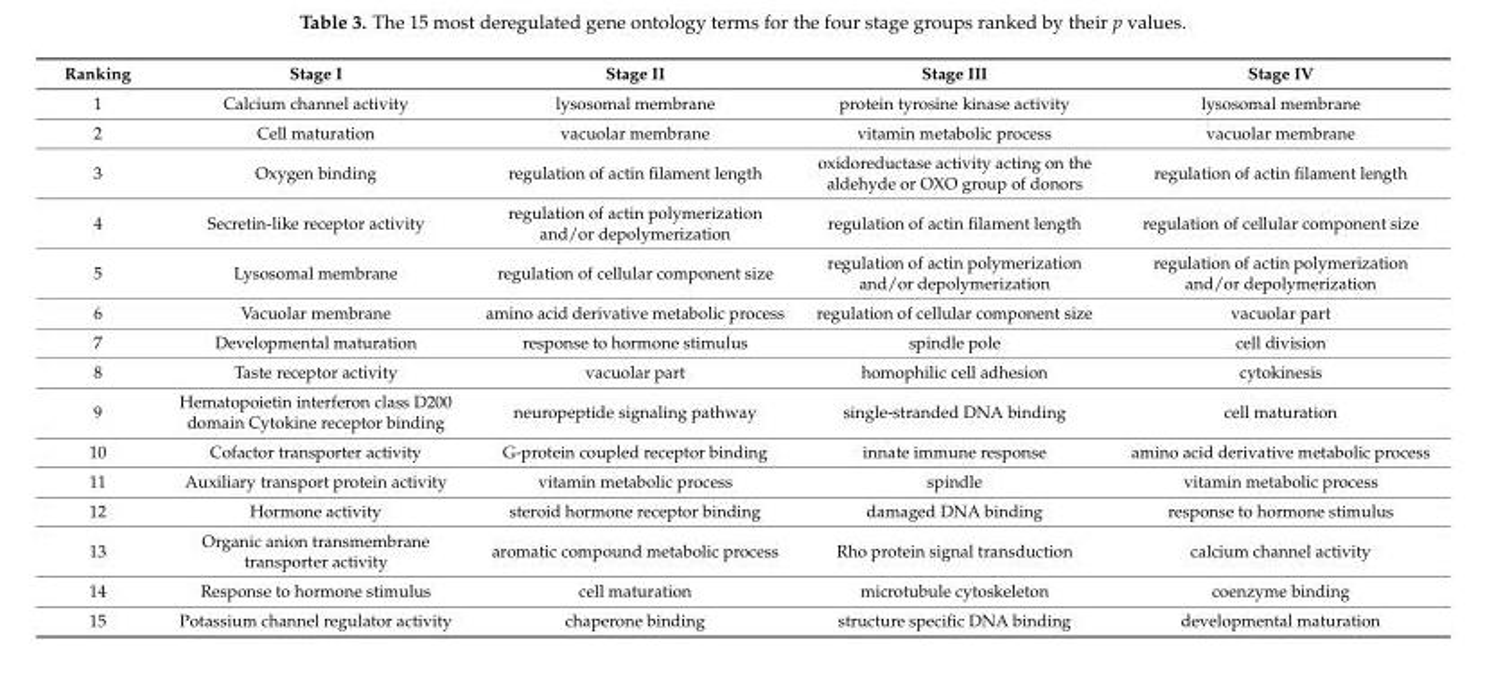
<table><thead><tr><td>Ranking</td><td>Stage I</td><td>Stage II</td><td>Stage III</td><td>Stage IV</td></tr></thead><tbody><tr><td>1</td><td>Calcium channel activity</td><td>lysosomal membrane</td><td>protein tyrosine kinase activity</td><td>lysosomal membrane</td></tr><tr><td>2</td><td>Cell maturation</td><td>vacuolar membrane</td><td>vitamin metabolic process</td><td>vacuolar membrane</td></tr><tr><td>3</td><td>Oxygen binding</td><td>regulation of actin filament length</td><td>oxidoreductase activity acting on the aldehyde or OXO group of donors</td><td>regulation of actin filament length</td></tr><tr><td>4</td><td>Secretin-like receptor activity</td><td>regulation of actin polymerization and/or depolymerization</td><td>regulation of actin filament length</td><td>regulation of cellular component size</td></tr><tr><td>5</td><td>Lysosomal membrane</td><td>regulation of cellular component size</td><td>regulation of actin polymerization and/or depolymerization</td><td>regulation of actin polymerization and/or depolymerization</td></tr><tr><td>6</td><td>Vacuolar membrane</td><td>amino acid derivative metabolic process</td><td>regulation of cellular component size</td><td>vacuolar part</td></tr><tr><td>7</td><td>Developmental maturation</td><td>response to hormone stimulus</td><td>spindle pole</td><td>cell division</td></tr><tr><td>8</td><td>Taste receptor activity</td><td>vacuolar part</td><td>homophilic cell adhesion</td><td>cytokinesis</td></tr><tr><td>9</td><td>Hematopoietin interferon class D200 domain Cytokine receptor binding</td><td>neuropeptide signaling pathway</td><td>single-stranded DNA binding</td><td>cell maturation</td></tr><tr><td>10</td><td>Cofactor transporter activity</td><td>G-protein coupled receptor binding</td><td>innate immune response</td><td>amino acid derivative metabolic process</td></tr><tr><td>11</td><td>Auxiliary transport protein activity</td><td>vitamin metabolic process</td><td>spindle</td><td>vitamin metabolic process</td></tr><tr><td>12</td><td>Hormone activity</td><td>steroid hormone receptor binding</td><td>damaged DNA binding</td><td>response to hormone stimulus</td></tr><tr><td>13</td><td>Organic anion transmembrane transporter activity</td><td>aromatic compound metabolic process</td><td>Rho protein signal transduction</td><td>calcium channel activity</td></tr><tr><td>14</td><td>Response to hormone stimulus</td><td>cell maturation</td><td>microtubule cytoskeleton</td><td>coenzyme binding</td></tr><tr><td>15</td><td>Potassium channel regulator activity</td><td>chaperone binding</td><td>structure specific DNA binding</td><td>developmental maturation</td></tr></tbody></table>